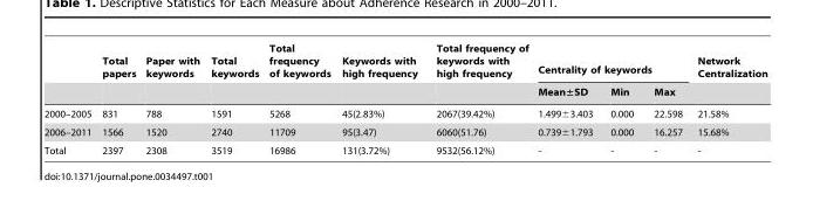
<table><thead><tr><td rowspan="2"></td><td rowspan="2">Total papers</td><td rowspan="2">Paper with keywords</td><td rowspan="2">Total keywords</td><td rowspan="2">Total frequency of keywords</td><td rowspan="2">Keywords with high frequency</td><td rowspan="2">Total frequency of keywords with high frequency</td><td colspan="3">Centrality of keywords</td><td rowspan="2">Network Centralization</td></tr><tr><td>Mean±SD</td><td>Min</td><td>Max</td></tr></thead><tbody><tr><td>2000–2005</td><td>831</td><td>788</td><td>1591</td><td>5268</td><td>45(2.83%)</td><td>2067(39.42%)</td><td>1.499±3.403</td><td>0.000</td><td>22.598</td><td>21.58%</td></tr><tr><td>2006–2011</td><td>1566</td><td>1520</td><td>2740</td><td>11709</td><td>95(3.47)</td><td>6060(51.76)</td><td>0.739±1.793</td><td>0.000</td><td>16.257</td><td>15.68%</td></tr><tr><td>Total</td><td>2397</td><td>2308</td><td>3519</td><td>16986</td><td>131(3.72%)</td><td>9532(56.12%)</td><td>-</td><td>-</td><td>-</td><td>-</td></tr></tbody></table>